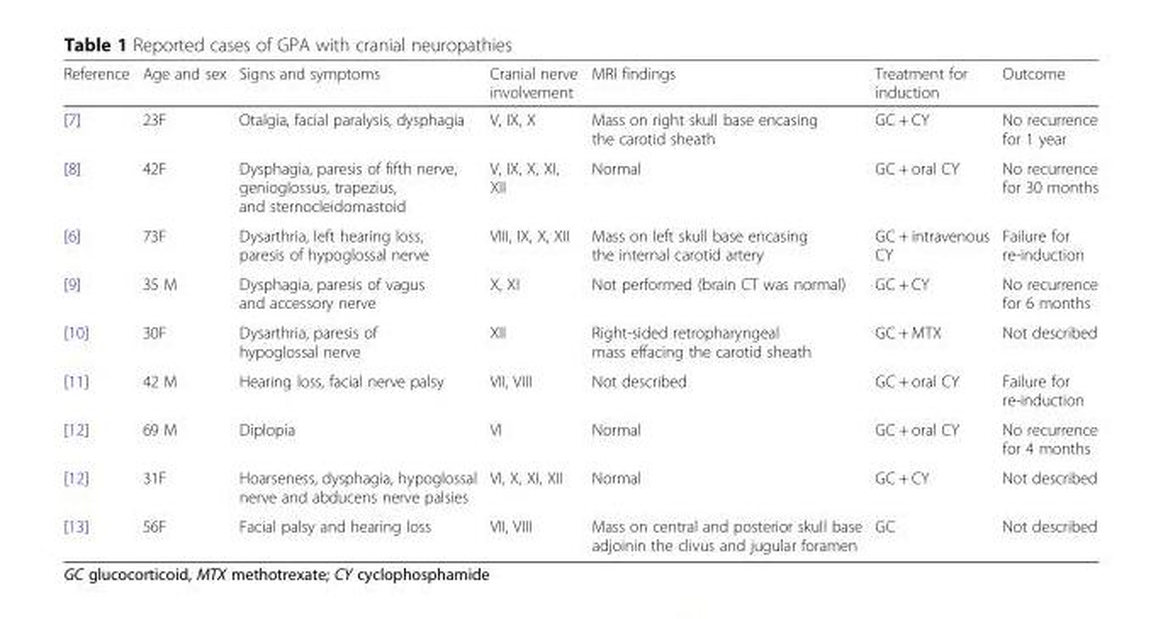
<table><thead><tr><td>Reference</td><td>Age and sex</td><td>Signs and symptoms</td><td>Cranial nerve involvement</td><td>MRI findings</td><td>Treatment for induction</td><td>Outcome</td></tr></thead><tbody><tr><td>[7]</td><td>23F</td><td>Otalgia, facial paralysis, dysphagia</td><td>V, IX, X</td><td>Mass on right skull base encasing the carotid sheath</td><td>GC + CY</td><td>No recurrence for 1 year</td></tr><tr><td>[8]</td><td>42F</td><td>Dysphagia, paresis of fifth nerve, genioglossus, trapezius, and sternocleidomastoid</td><td>V, IX, X, XI, XII</td><td>Normal</td><td>GC + oral CY</td><td>No recurrence for 30 months</td></tr><tr><td>[6]</td><td>73F</td><td>Dysarthria, left hearing loss, paresis of hypoglossal nerve</td><td>VIII, IX, X, XII</td><td>Mass on left skull base encasing the internal carotid artery</td><td>GC + intravenous CY</td><td>Failure for re-induction</td></tr><tr><td>[9]</td><td>35 M</td><td>Dysphagia, paresis of vagus and accessory nerve</td><td>X, XI</td><td>Not performed (brain CT was normal)</td><td>GC + CY</td><td>No recurrence for 6 months</td></tr><tr><td>[10]</td><td>30F</td><td>Dysarthria, paresis of hypoglossal nerve</td><td>XII</td><td>Right-sided retropharyngeal mass effacing the carotid sheath</td><td>GC + MTX</td><td>Not described</td></tr><tr><td>[11]</td><td>42 M</td><td>Hearing loss, facial nerve palsy</td><td>VII, VIII</td><td>Not described</td><td>GC + oral CY</td><td>Failure for re-induction</td></tr><tr><td>[12]</td><td>69 M</td><td>Diplopia</td><td>VI</td><td>Normal</td><td>GC + oral CY</td><td>No recurrence for 4 months</td></tr><tr><td>[12]</td><td>31F</td><td>Hoarseness, dysphagia, hypoglossal nerve and abducens nerve palsies</td><td>VI, X, XI, XII</td><td>Normal</td><td>GC + CY</td><td>Not described</td></tr><tr><td>[13]</td><td>56F</td><td>Facial palsy and hearing loss</td><td>VII, VIII</td><td>Mass on central and posterior skull base adjoinin the clivus and jugular foramen</td><td>GC</td><td>Not described</td></tr></tbody></table>